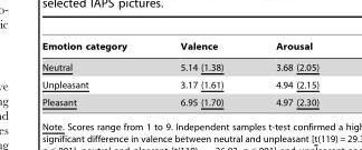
<table><thead><tr><td>Emotion category</td><td>Valence</td><td>Arousal</td></tr></thead><tbody><tr><td>Neutral</td><td>5.14 (1.38)</td><td>3.68 (2.05)</td></tr><tr><td>Unpleasant</td><td>3.17 (1.61)</td><td>4.94 (2.15)</td></tr><tr><td>Pleasant</td><td>6.95 (1.70)</td><td>4.97 (2.30)</td></tr></tbody></table>